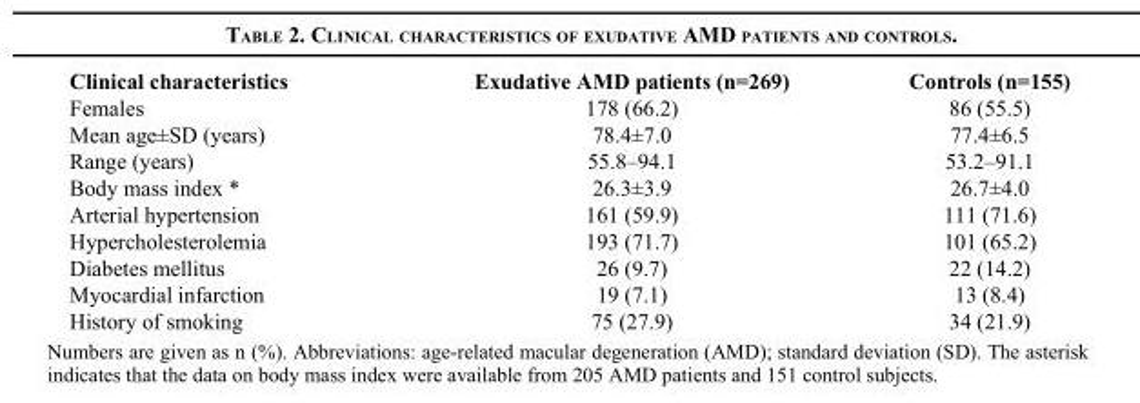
<table><thead><tr><td>Clinical characteristics</td><td>Exudative AMD patients (n=269)</td><td>Controls (n=155)</td></tr></thead><tbody><tr><td>Females</td><td>178 (66.2)</td><td>86 (55.5)</td></tr><tr><td>Mean age±SD (years)</td><td>78.4±7.0</td><td>77.4±6.5</td></tr><tr><td>Range (years)</td><td>55.8–94.1</td><td>53.2–91.1</td></tr><tr><td>Body mass index *</td><td>26.3±3.9</td><td>26.7±4.0</td></tr><tr><td>Arterial hypertension</td><td>161 (59.9)</td><td>111 (71.6)</td></tr><tr><td>Hypercholesterolemia</td><td>193 (71.7)</td><td>101 (65.2)</td></tr><tr><td>Diabetes mellitus</td><td>26 (9.7)</td><td>22 (14.2)</td></tr><tr><td>Myocardial infarction</td><td>19 (7.1)</td><td>13 (8.4)</td></tr><tr><td>History of smoking</td><td>75 (27.9)</td><td>34 (21.9)</td></tr></tbody></table>